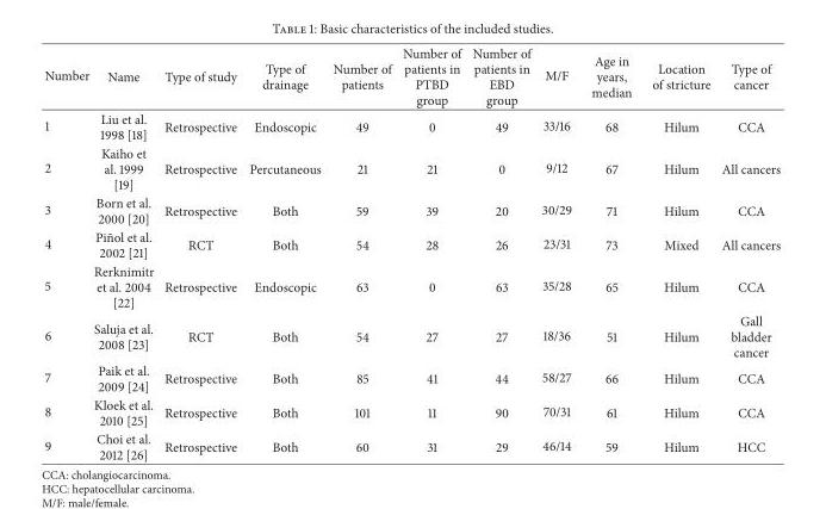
<table><thead><tr><td>Number</td><td>Name</td><td>Type of study</td><td>Type of drainage</td><td>Number of patients</td><td>Number of patients in PTBD group</td><td>Number of patients in EBD group</td><td>M/F</td><td>Age in years, median</td><td>Location of stricture</td><td>Type of cancer</td></tr></thead><tbody><tr><td>1</td><td>Liu et al. 1998 [18]</td><td>Retrospective</td><td>Endoscopic</td><td>49</td><td>0</td><td>49</td><td>33/16</td><td>68</td><td>Hilum</td><td>CCA</td></tr><tr><td>2</td><td>Kaiho et al. 1999 [19]</td><td>Retrospective</td><td>Percutaneous</td><td>21</td><td>21</td><td>0</td><td>9/12</td><td>67</td><td>Hilum</td><td>All cancers</td></tr><tr><td>3</td><td>Born et al. 2000 [20]</td><td>Retrospective</td><td>Both</td><td>59</td><td>39</td><td>20</td><td>30/29</td><td>71</td><td>Hilum</td><td>CCA</td></tr><tr><td>4</td><td>Pi˜nol et al. 2002 [21]</td><td>RCT</td><td>Both</td><td>54</td><td>28</td><td>26</td><td>23/31</td><td>73</td><td>Mixed</td><td>All cancers</td></tr><tr><td>5</td><td>Rerknimitr et al. 2004 [22]</td><td>Retrospective</td><td>Endoscopic</td><td>63</td><td>0</td><td>63</td><td>35/28</td><td>65</td><td>Hilum</td><td>CCA</td></tr><tr><td>6</td><td>Saluja et al. 2008 [23]</td><td>RCT</td><td>Both</td><td>54</td><td>27</td><td>27</td><td>18/36</td><td>51</td><td>Hilum</td><td>Gall bladder cancer</td></tr><tr><td>7</td><td>Paik et al. 2009 [24]</td><td>Retrospective</td><td>Both</td><td>85</td><td>41</td><td>44</td><td>58/27</td><td>66</td><td>Hilum</td><td>CCA</td></tr><tr><td>8</td><td>Kloek et al. 2010 [25]</td><td>Retrospective</td><td>Both</td><td>101</td><td>11</td><td>90</td><td>70/31</td><td>61</td><td>Hilum</td><td>CCA</td></tr><tr><td>9</td><td>Choi et al. 2012 [26]</td><td>Retrospective</td><td>Both</td><td>60</td><td>31</td><td>29</td><td>46/14</td><td>59</td><td>Hilum</td><td>HCC</td></tr></tbody></table>